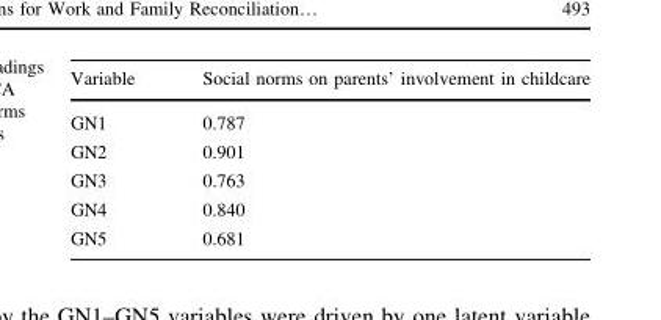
<table><thead><tr><td>Variable</td><td>Social norms on parents’ involvement in childcare</td></tr></thead><tbody><tr><td>GN1</td><td>0.787</td></tr><tr><td>GN2</td><td>0.901</td></tr><tr><td>GN3</td><td>0.763</td></tr><tr><td>GN4</td><td>0.840</td></tr><tr><td>GN5</td><td>0.681</td></tr></tbody></table>